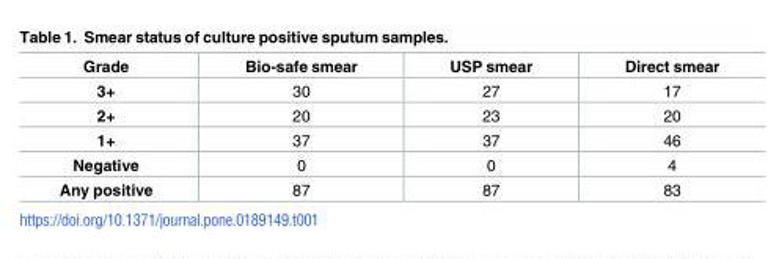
<table><thead><tr><td>Grade</td><td>Bio-safe smear</td><td>USP smear</td><td>Direct smear</td></tr></thead><tbody><tr><td>3+</td><td>30</td><td>27</td><td>17</td></tr><tr><td>2+</td><td>20</td><td>23</td><td>20</td></tr><tr><td>1+</td><td>37</td><td>37</td><td>46</td></tr><tr><td>Negative</td><td>0</td><td>0</td><td>4</td></tr><tr><td>Any positive</td><td>87</td><td>87</td><td>83</td></tr></tbody></table>